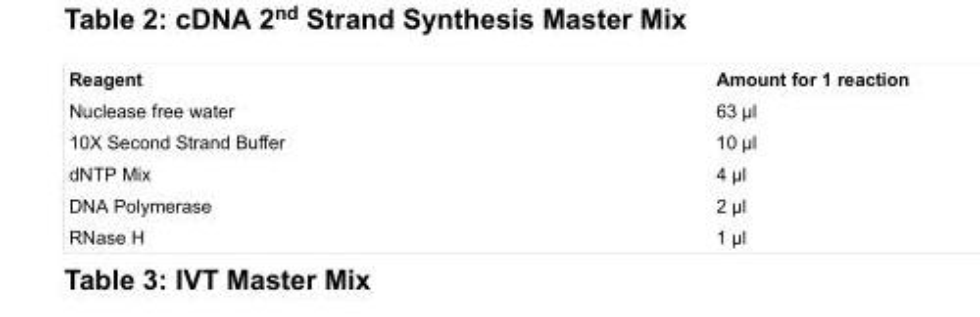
<table><tbody><tr><td>Reagent</td><td>Amount for 1 reaction</td></tr><tr><td>Nuclease free water</td><td>63 µl</td></tr><tr><td>10X Second Strand Buffer</td><td>10 µl</td></tr><tr><td>dNTP Mix</td><td>4 µl</td></tr><tr><td>DNA Polymerase</td><td>2 µl</td></tr><tr><td>RNase H</td><td>1 µl</td></tr></tbody></table>